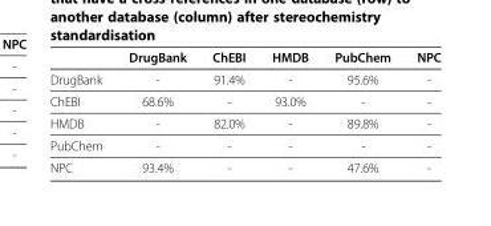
<table><thead><tr><td></td><td>DrugBank</td><td>ChEBI</td><td>HMDB</td><td>PubChem</td><td>NPC</td></tr></thead><tbody><tr><td>DrugBank</td><td>-</td><td>91.4%</td><td>-</td><td>95.6%</td><td>-</td></tr><tr><td>ChEBI</td><td>68.6%</td><td>-</td><td>93.0%</td><td>-</td><td>-</td></tr><tr><td>HMDB</td><td>-</td><td>82.0%</td><td>-</td><td>89.8%</td><td>-</td></tr><tr><td>PubChem</td><td>-</td><td>-</td><td>-</td><td>-</td><td>-</td></tr><tr><td>NPC</td><td>93.4%</td><td>-</td><td>-</td><td>47.6%</td><td>-</td></tr></tbody></table>